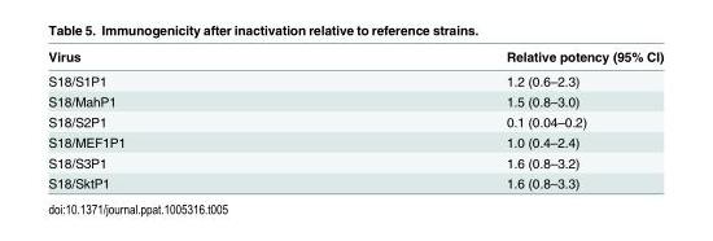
<table><thead><tr><td>Virus</td><td>Relative potency (95% CI)</td></tr></thead><tbody><tr><td>S18/S1P1</td><td>1.2 (0.6–2.3)</td></tr><tr><td>S18/MahP1</td><td>1.5 (0.8–3.0)</td></tr><tr><td>S18/S2P1</td><td>0.1 (0.04–0.2)</td></tr><tr><td>S18/MEF1P1</td><td>1.0 (0.4–2.4)</td></tr><tr><td>S18/S3P1</td><td>1.6 (0.8–3.2)</td></tr><tr><td>S18/SktP1</td><td>1.6 (0.8–3.3)</td></tr></tbody></table>